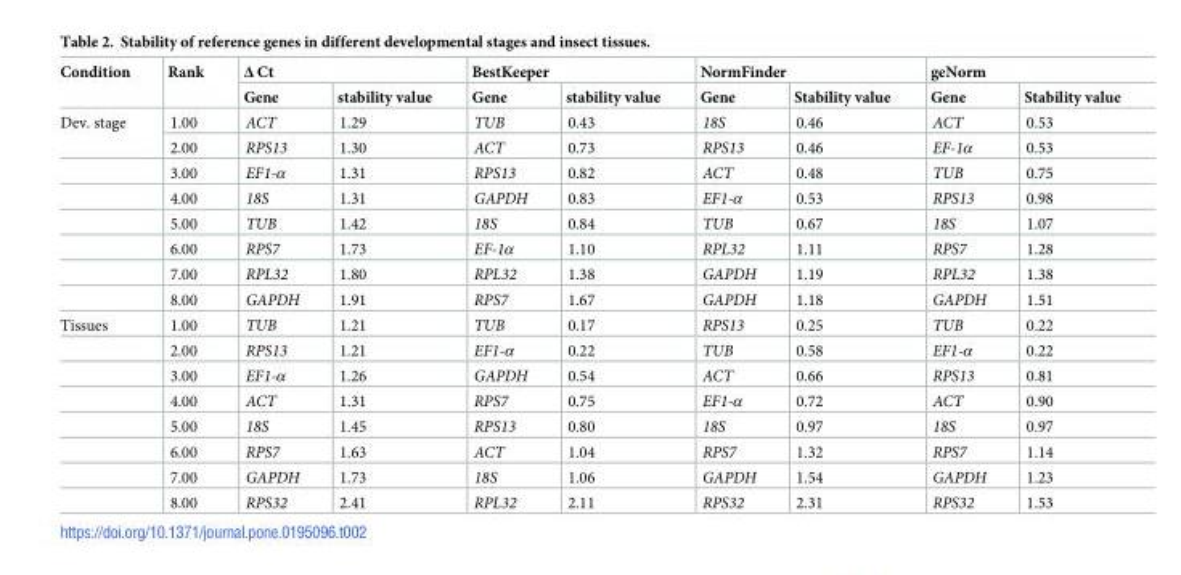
<table><thead><tr><td rowspan="2">Condition</td><td rowspan="2">Rank</td><td colspan="2">Δ Ct</td><td colspan="2">BestKeeper</td><td colspan="2">NormFinder</td><td colspan="2">geNorm</td></tr><tr><td>Gene</td><td>stability value</td><td>Gene</td><td>stability value</td><td>Gene</td><td>Stability value</td><td>Gene</td><td>Stability value</td></tr></thead><tbody><tr><td rowspan="8">Dev. stage</td><td>1.00</td><td>ACT</td><td>1.29</td><td>TUB</td><td>0.43</td><td>18S</td><td>0.46</td><td>ACT</td><td>0.53</td></tr><tr><td>2.00</td><td>RPS13</td><td>1.30</td><td>ACT</td><td>0.73</td><td>RPS13</td><td>0.46</td><td>EF-1α</td><td>0.53</td></tr><tr><td>3.00</td><td>EF1-α</td><td>1.31</td><td>RPS13</td><td>0.82</td><td>ACT</td><td>0.48</td><td>TUB</td><td>0.75</td></tr><tr><td>4.00</td><td>18S</td><td>1.31</td><td>GAPDH</td><td>0.83</td><td>EF1-α</td><td>0.53</td><td>RPS13</td><td>0.98</td></tr><tr><td>5.00</td><td>TUB</td><td>1.42</td><td>18S</td><td>0.84</td><td>TUB</td><td>0.67</td><td>18S</td><td>1.07</td></tr><tr><td>6.00</td><td>RPS7</td><td>1.73</td><td>EF-1α</td><td>1.10</td><td>RPL32</td><td>1.11</td><td>RPS7</td><td>1.28</td></tr><tr><td>7.00</td><td>RPL32</td><td>1.80</td><td>RPL32</td><td>1.38</td><td>GAPDH</td><td>1.19</td><td>RPL32</td><td>1.38</td></tr><tr><td>8.00</td><td>GAPDH</td><td>1.91</td><td>RPS7</td><td>1.67</td><td>GAPDH</td><td>1.18</td><td>GAPDH</td><td>1.51</td></tr><tr><td rowspan="8">Tissues</td><td>1.00</td><td>TUB</td><td>1.21</td><td>TUB</td><td>0.17</td><td>RPS13</td><td>0.25</td><td>TUB</td><td>0.22</td></tr><tr><td>2.00</td><td>RPS13</td><td>1.21</td><td>EF1-α</td><td>0.22</td><td>TUB</td><td>0.58</td><td>EF1-α</td><td>0.22</td></tr><tr><td>3.00</td><td>EF1-α</td><td>1.26</td><td>GAPDH</td><td>0.54</td><td>ACT</td><td>0.66</td><td>RPS13</td><td>0.81</td></tr><tr><td>4.00</td><td>ACT</td><td>1.31</td><td>RPS7</td><td>0.75</td><td>EF1-α</td><td>0.72</td><td>ACT</td><td>0.90</td></tr><tr><td>5.00</td><td>18S</td><td>1.45</td><td>RPS13</td><td>0.80</td><td>18S</td><td>0.97</td><td>18S</td><td>0.97</td></tr><tr><td>6.00</td><td>RPS7</td><td>1.63</td><td>ACT</td><td>1.04</td><td>RPS7</td><td>1.32</td><td>RPS7</td><td>1.14</td></tr><tr><td>7.00</td><td>GAPDH</td><td>1.73</td><td>18S</td><td>1.06</td><td>GAPDH</td><td>1.54</td><td>GAPDH</td><td>1.23</td></tr><tr><td>8.00</td><td>RPS32</td><td>2.41</td><td>RPL32</td><td>2.11</td><td>RPS32</td><td>2.31</td><td>RPS32</td><td>1.53</td></tr></tbody></table>